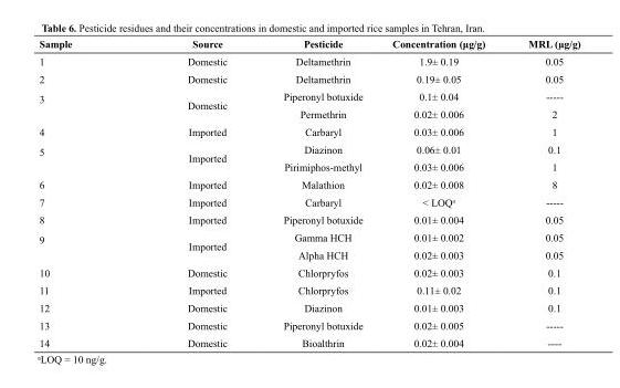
<table><thead><tr><td>Sample</td><td>Source</td><td>Pesticide</td><td>Concentration (μg/g)</td><td>MRL (µg/g)</td></tr></thead><tbody><tr><td>1</td><td>Domestic</td><td>Deltamethrin</td><td>1.9± 0.19</td><td>0.05</td></tr><tr><td>2</td><td>Domestic</td><td>Deltamethrin</td><td>0.19± 0.05</td><td>0.05</td></tr><tr><td rowspan="2">3</td><td rowspan="2">Domestic</td><td>Piperonyl botuxide</td><td>0.1± 0.04</td><td>-----</td></tr><tr><td>Permethrin</td><td>0.02± 0.006</td><td>2</td></tr><tr><td>4</td><td>Imported</td><td>Carbaryl</td><td>0.03± 0.006</td><td>1</td></tr><tr><td rowspan="2">5</td><td rowspan="2">Imported</td><td>Diazinon</td><td>0.06± 0.01</td><td>0.1</td></tr><tr><td>Pirimiphos-methyl</td><td>0.03± 0.006</td><td>1</td></tr><tr><td>6</td><td>Imported</td><td>Malathion</td><td>0.02± 0.008</td><td>8</td></tr><tr><td>7</td><td>Imported</td><td>Carbaryl</td><td>&lt; LOQ<sup>a</sup></td><td>-----</td></tr><tr><td>8</td><td>Imported</td><td>Piperonyl botuxide</td><td>0.01± 0.004</td><td>0.05</td></tr><tr><td rowspan="2">9</td><td rowspan="2">Imported</td><td>Gamma HCH</td><td>0.01± 0.002</td><td>0.05</td></tr><tr><td>Alpha HCH</td><td>0.02± 0.003</td><td>0.05</td></tr><tr><td>10</td><td>Domestic</td><td>Chlorpryfos</td><td>0.02± 0.003</td><td>0.1</td></tr><tr><td>11</td><td>Imported</td><td>Chlorpryfos</td><td>0.11± 0.02</td><td>0.1</td></tr><tr><td>12</td><td>Domestic</td><td>Diazinon</td><td>0.01± 0.003</td><td>0.1</td></tr><tr><td>13</td><td>Domestic</td><td>Piperonyl botuxide</td><td>0.02± 0.005</td><td>-----</td></tr><tr><td>14</td><td>Domestic</td><td>Bioalthrin</td><td>0.02± 0.004</td><td>----</td></tr></tbody></table>